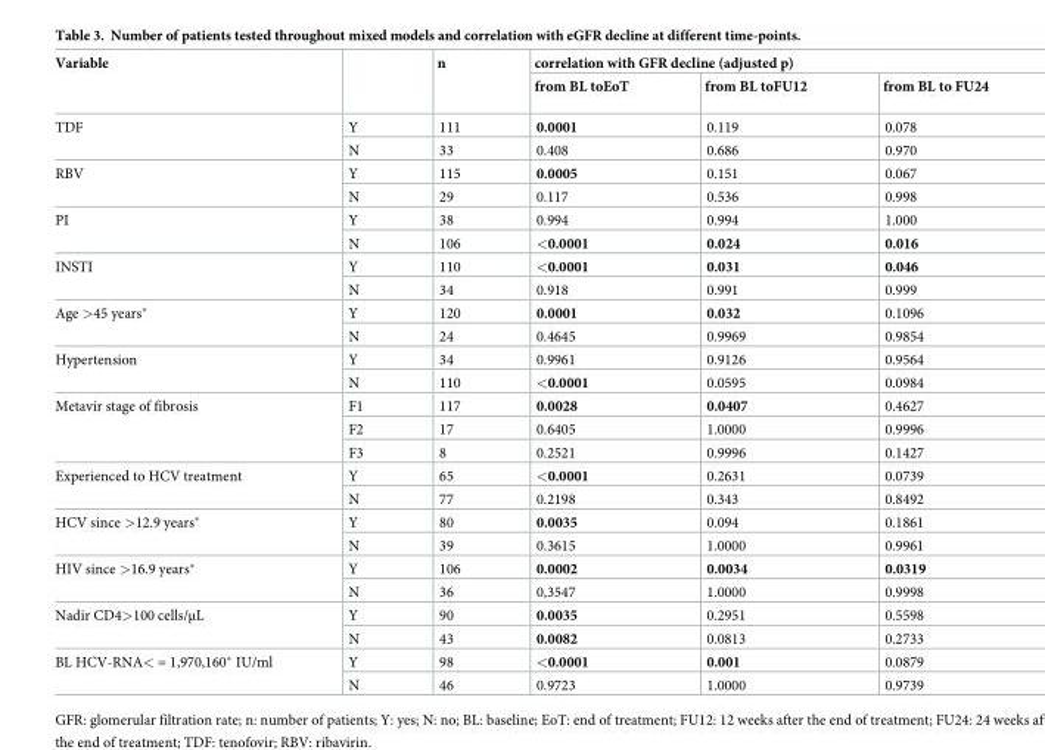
<table><thead><tr><td rowspan="2">Variable</td><td rowspan="2"></td><td rowspan="2">n</td><td colspan="3">correlation with GFR decline (adjusted p)</td></tr><tr><td>from BL toEoT</td><td>from BL toFU12</td><td>from BL to FU24</td></tr></thead><tbody><tr><td rowspan="2">TDF</td><td>Y</td><td>111</td><td>0.0001</td><td>0.119</td><td>0.078</td></tr><tr><td>N</td><td>33</td><td>0.408</td><td>0.686</td><td>0.970</td></tr><tr><td rowspan="2">RBV</td><td>Y</td><td>115</td><td>0.0005</td><td>0.151</td><td>0.067</td></tr><tr><td>N</td><td>29</td><td>0.117</td><td>0.536</td><td>0.998</td></tr><tr><td rowspan="2">PI</td><td>Y</td><td>38</td><td>0.994</td><td>0.994</td><td>1.000</td></tr><tr><td>N</td><td>106</td><td>&lt;0.0001</td><td>0.024</td><td>0.016</td></tr><tr><td rowspan="2">INSTI</td><td>Y</td><td>110</td><td>&lt;0.0001</td><td>0.031</td><td>0.046</td></tr><tr><td>N</td><td>34</td><td>0.918</td><td>0.991</td><td>0.999</td></tr><tr><td rowspan="2">Age &gt;45 years*</td><td>Y</td><td>120</td><td>0.0001</td><td>0.032</td><td>0.1096</td></tr><tr><td>N</td><td>24</td><td>0.4645</td><td>0.9969</td><td>0.9854</td></tr><tr><td rowspan="2">Hypertension</td><td>Y</td><td>34</td><td>0.9961</td><td>0.9126</td><td>0.9564</td></tr><tr><td>N</td><td>110</td><td>&lt;0.0001</td><td>0.0595</td><td>0.0984</td></tr><tr><td rowspan="3">Metavir stage of fibrosis</td><td>F1</td><td>117</td><td>0.0028</td><td>0.0407</td><td>0.4627</td></tr><tr><td>F2</td><td>17</td><td>0.6405</td><td>1.0000</td><td>0.9996</td></tr><tr><td>F3</td><td>8</td><td>0.2521</td><td>0.9996</td><td>0.1427</td></tr><tr><td rowspan="2">Experienced to HCV treatment</td><td>Y</td><td>65</td><td>&lt;0.0001</td><td>0.2631</td><td>0.0739</td></tr><tr><td>N</td><td>77</td><td>0.2198</td><td>0.343</td><td>0.8492</td></tr><tr><td rowspan="2">HCV since &gt;12.9 years*</td><td>Y</td><td>80</td><td>0.0035</td><td>0.094</td><td>0.1861</td></tr><tr><td>N</td><td>39</td><td>0.3615</td><td>1.0000</td><td>0.9961</td></tr><tr><td rowspan="2">HIV since &gt;16.9 years*</td><td>Y</td><td>106</td><td>0.0002</td><td>0.0034</td><td>0.0319</td></tr><tr><td>N</td><td>36</td><td>0,3547</td><td>1.0000</td><td>0.9998</td></tr><tr><td rowspan="2">Nadir CD4&gt;100 cells/μL</td><td>Y</td><td>90</td><td>0.0035</td><td>0.2951</td><td>0.5598</td></tr><tr><td>N</td><td>43</td><td>0.0082</td><td>0.0813</td><td>0.2733</td></tr><tr><td rowspan="2">BL HCV-RNA&lt; = 1,970,160* IU/ml</td><td>Y</td><td>98</td><td>&lt;0.0001</td><td>0.001</td><td>0.0879</td></tr><tr><td>N</td><td>46</td><td>0.9723</td><td>1.0000</td><td>0.9739</td></tr></tbody></table>